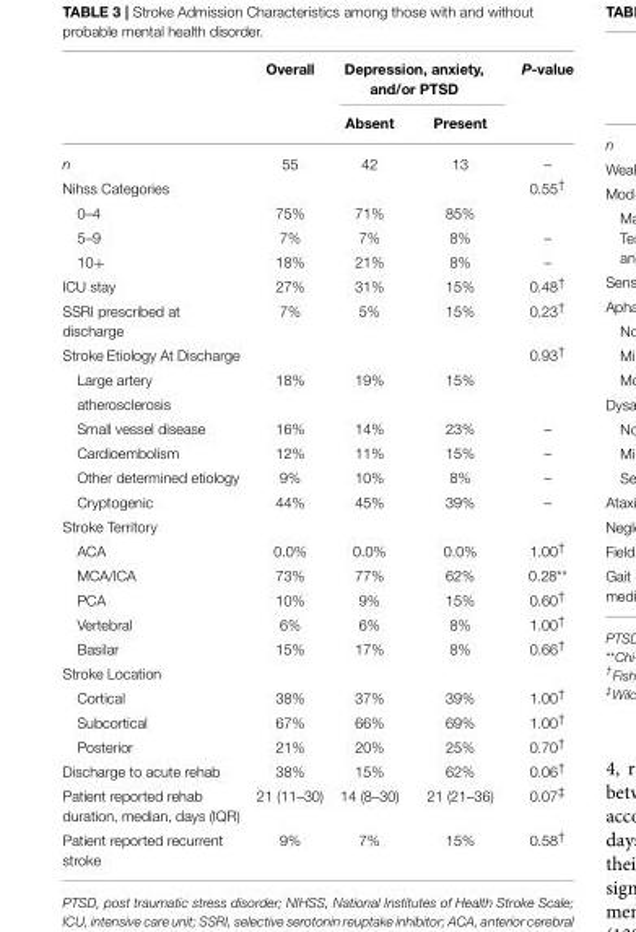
<table><thead><tr><td rowspan="2"></td><td rowspan="2">Overall</td><td colspan="2">Depression, anxiety, and/or PTSD</td><td rowspan="2">P-value</td></tr><tr><td>Absent</td><td>Present</td></tr></thead><tbody><tr><td>n</td><td>55</td><td>42</td><td>13</td><td>–</td></tr><tr><td>Nihss Categories</td><td></td><td></td><td></td><td>0.55<sup>†</sup></td></tr><tr><td>0–4</td><td>75%</td><td>71%</td><td>85%</td><td></td></tr><tr><td>5–9</td><td>7%</td><td>7%</td><td>8%</td><td>–</td></tr><tr><td>10+</td><td>18%</td><td>21%</td><td>8%</td><td>–</td></tr><tr><td>ICU stay</td><td>27%</td><td>31%</td><td>15%</td><td>0.48<sup>†</sup></td></tr><tr><td>SSRI prescribed at discharge</td><td>7%</td><td>5%</td><td>15%</td><td>0.23<sup>†</sup></td></tr><tr><td>Stroke Etiology At Discharge</td><td></td><td></td><td></td><td>0.93<sup>†</sup></td></tr><tr><td>Large artery</td><td>18%</td><td>19%</td><td>15%</td><td></td></tr><tr><td colspan="5">atherosclerosis</td></tr><tr><td>Small vessel disease</td><td>16%</td><td>14%</td><td>23%</td><td>–</td></tr><tr><td>Cardioembolism</td><td>12%</td><td>11%</td><td>15%</td><td>–</td></tr><tr><td>Other determined etiology</td><td>9%</td><td>10%</td><td>8%</td><td>–</td></tr><tr><td>Cryptogenic</td><td>44%</td><td>45%</td><td>39%</td><td>–</td></tr><tr><td colspan="5">Stroke Territory</td></tr><tr><td>ACA</td><td>0.0%</td><td>0.0%</td><td>0.0%</td><td>1.00<sup>†</sup></td></tr><tr><td>MCA/ICA</td><td>73%</td><td>77%</td><td>62%</td><td>0.28**</td></tr><tr><td>PCA</td><td>10%</td><td>9%</td><td>15%</td><td>0.60<sup>†</sup></td></tr><tr><td>Vertebral</td><td>6%</td><td>6%</td><td>8%</td><td>1.00<sup>†</sup></td></tr><tr><td>Basilar</td><td>15%</td><td>17%</td><td>8%</td><td>0.66<sup>†</sup></td></tr><tr><td colspan="5">Stroke Location</td></tr><tr><td>Cortical</td><td>38%</td><td>37%</td><td>39%</td><td>1.00<sup>†</sup></td></tr><tr><td>Subcortical</td><td>67%</td><td>66%</td><td>69%</td><td>1.00<sup>†</sup></td></tr><tr><td>Posterior</td><td>21%</td><td>20%</td><td>25%</td><td>0.70<sup>†</sup></td></tr><tr><td>Discharge to acute rehab</td><td>38%</td><td>15%</td><td>62%</td><td>0.06<sup>†</sup></td></tr><tr><td>Patient reported rehab duration, median, days (IQR)</td><td>21 (11–30)</td><td>14 (8–30)</td><td>21 (21–36)</td><td>0.07<sup>‡</sup></td></tr><tr><td>Patient reported recurrent stroke</td><td>9%</td><td>7%</td><td>15%</td><td>0.58<sup>†</sup></td></tr></tbody></table>